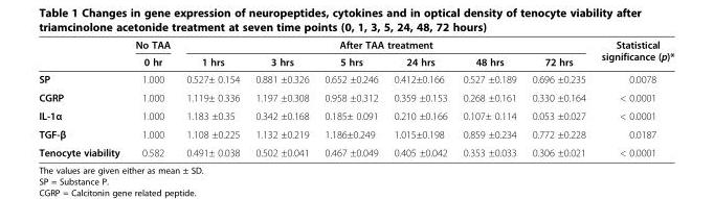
<table><thead><tr><td rowspan="2"></td><td rowspan="2">No TAA 0 hr</td><td colspan="6">After TAA treatment</td><td rowspan="2">Statistical significance (p)*</td></tr><tr><td>1 hrs</td><td>3 hrs</td><td>5 hrs</td><td>24 hrs</td><td>48 hrs</td><td>72 hrs</td></tr></thead><tbody><tr><td>SP</td><td>1.000</td><td>0.527± 0.154</td><td>0.881 ±0.326</td><td>0.652 ±0.246</td><td>0.412±0.166</td><td>0.527 ±0.189</td><td>0.696 ±0.235</td><td>0.0078</td></tr><tr><td>CGRP</td><td>1.000</td><td>1.119± 0.336</td><td>1.197 ±0.308</td><td>0.958 ±0.312</td><td>0.359 ±0.153</td><td>0.268 ±0.161</td><td>0.330 ±0.164</td><td>&lt; 0.0001</td></tr><tr><td>IL-1α</td><td>1.000</td><td>1.183 ±0.35</td><td>0.342 ±0.168</td><td>0.185± 0.091</td><td>0.210 ±0.166</td><td>0.107± 0.114</td><td>0.053 ±0.027</td><td>&lt; 0.0001</td></tr><tr><td>TGF-β</td><td>1.000</td><td>1.108 ±0.225</td><td>1.132 ±0.219</td><td>1.186±0.249</td><td>1.015±0.198</td><td>0.859 ±0.234</td><td>0.772 ±0.228</td><td>0.0187</td></tr><tr><td>Tenocyte viability</td><td>0.582</td><td>0.491± 0.038</td><td>0.502 ±0.041</td><td>0.467 ±0.049</td><td>0.405 ±0.042</td><td>0.353 ±0.033</td><td>0.306 ±0.021</td><td>&lt; 0.0001</td></tr></tbody></table>